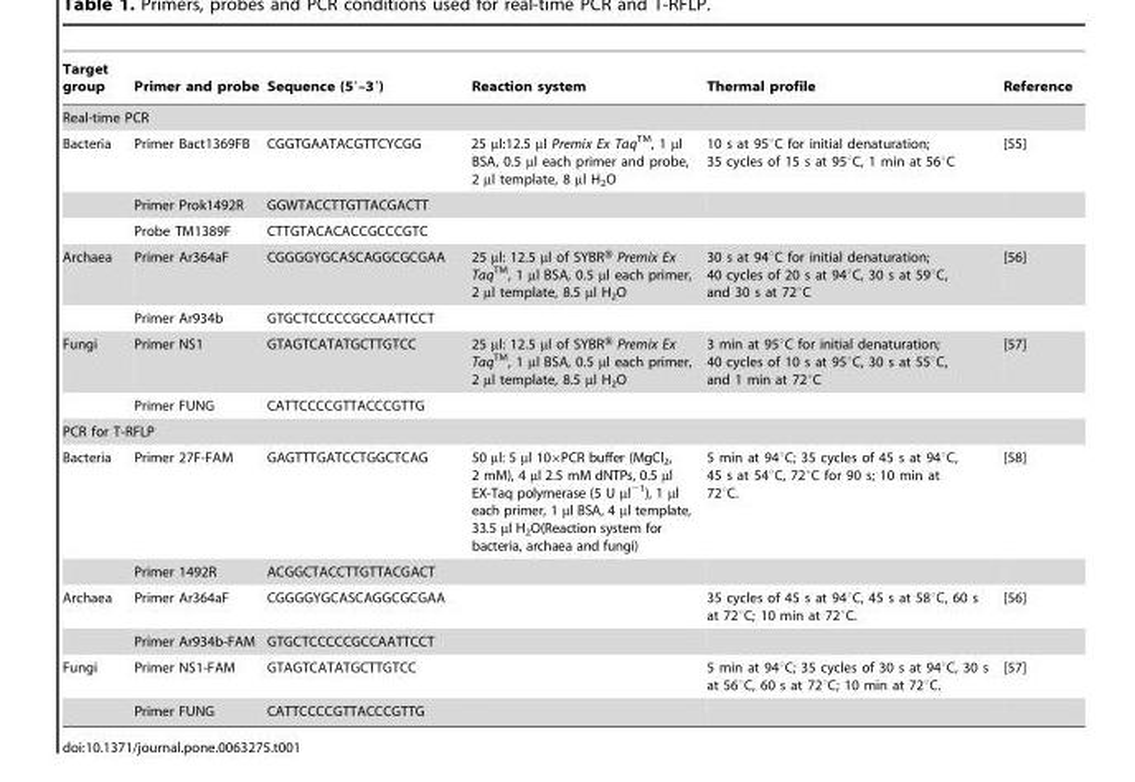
<table><thead><tr><td>Target group</td><td>Primer and probe</td><td>Sequence (5′–3′)</td><td>Reaction system</td><td>Thermal profile</td><td>Reference</td></tr></thead><tbody><tr><td colspan="6">Real-time PCR</td></tr><tr><td rowspan="3">Bacteria</td><td>Primer Bact1369FB</td><td>CGGTGAATACGTTCYCGG</td><td>25 ml:12.5 ml Premix Ex TaqTM, 1 ml BSA, 0.5 ml each primer and probe, 2 ml template, 8 ml H2O</td><td>10 s at 95°C for initial denaturation; 35 cycles of 15 s at 95°C, 1 min at 56°C</td><td>[55]</td></tr><tr><td>Primer Prok1492R</td><td>GGWTACCTTGTTACGACTT</td><td></td><td></td><td></td></tr><tr><td>Probe TM1389F</td><td>CTTGTACACACCGCCCGTC</td><td></td><td></td><td></td></tr><tr><td rowspan="2">Archaea</td><td>Primer Ar364aF</td><td>CGGGGYGCASCAGGCGCGAA</td><td>25 ml: 12.5 ml of SYBRH Premix Ex TaqTM, 1 ml BSA, 0.5 ml each primer, 2 ml template, 8.5 ml H2O</td><td>30 s at 94°C for initial denaturation; 40 cycles of 20 s at 94°C, 30 s at 59°C, and 30 s at 72°C</td><td>[56]</td></tr><tr><td>Primer Ar934b</td><td>GTGCTCCCCCGCCAATTCCT</td><td></td><td></td><td></td></tr><tr><td rowspan="2">Fungi</td><td>Primer NS1</td><td>GTAGTCATATGCTTGTCC</td><td>25 ml: 12.5 ml of SYBRH Premix Ex TaqTM, 1 ml BSA, 0.5 ml each primer, 2 ml template, 8.5 ml H2O</td><td>3 min at 95°C for initial denaturation; 40 cycles of 10 s at 95°C, 30 s at 55°C, and 1 min at 72°C</td><td>[57]</td></tr><tr><td>Primer FUNG</td><td>CATTCCCCGTTACCCGTTG</td><td></td><td></td><td></td></tr><tr><td colspan="6">PCR for T-RFLP</td></tr><tr><td rowspan="2">Bacteria</td><td>Primer 27F-FAM</td><td>GAGTTTGATCCTGGCTCAG</td><td>50 µl: 5 µl 10×PCR buffer (MgCl<sub>2</sub>, 2 mM), 4 µl 2.5 mM dNTPs, 0.5 µl EX-Taq polymerase (5 U µl<sup>−1</sup>), 1 µl each primer, 1 µl BSA, 4 µl template, 33.5 µl H<sub>2</sub>O(Reaction system for bacteria, archaea and fungi)</td><td>5 min at 94°C; 35 cycles of 45 s at 94°C, 45 s at 54°C, 72°C for 90 s; 10 min at 72°C.</td><td>[58]</td></tr><tr><td>Primer 1492R</td><td>ACGGCTACCTTGTTACGACT</td><td></td><td></td><td></td></tr><tr><td rowspan="2">Archaea</td><td>Primer Ar364aF</td><td>CGGGGYGCASCAGGCGCGAA</td><td></td><td>35 cycles of 45 s at 94°C, 45 s at 58°C, 60 s at 72°C; 10 min at 72°C.</td><td>[56]</td></tr><tr><td>Primer Ar934b-FAM</td><td>GTGCTCCCCCGCCAATTCCT</td><td></td><td></td><td></td></tr><tr><td rowspan="2">Fungi</td><td>Primer NS1-FAM</td><td>GTAGTCATATGCTTGTCC</td><td></td><td>5 min at 94°C; 35 cycles of 30 s at 94°C, 30 s at 56°C, 60 s at 72°C; 10 min at 72°C.</td><td>[57]</td></tr><tr><td>Primer FUNG</td><td>CATTCCCCGTTACCCGTTG</td><td></td><td></td><td></td></tr></tbody></table>